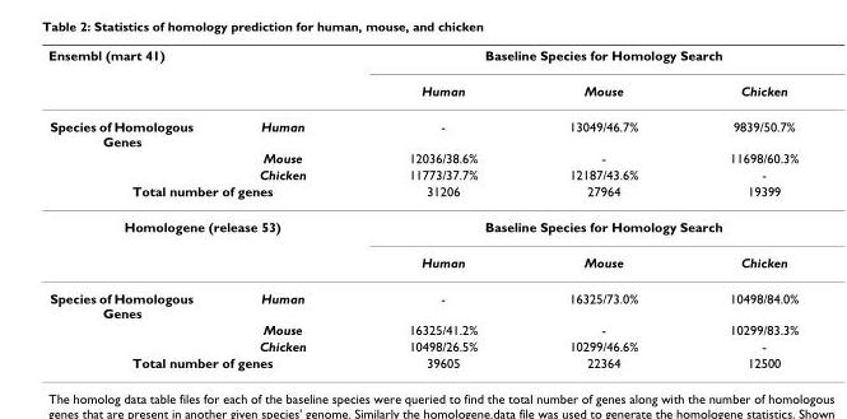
<table><thead><tr><td colspan="2">Ensembl (mart 41)</td><td colspan="3">Baseline Species for Homology Search</td></tr><tr><td></td><td></td><td>Human</td><td>Mouse</td><td>Chicken</td></tr></thead><tbody><tr><td rowspan="3">Species of Homologous Genes</td><td>Human</td><td>-</td><td>13049/46.7%</td><td>9839/50.7%</td></tr><tr><td>Mouse</td><td>12036/38.6%</td><td>-</td><td>11698/60.3%</td></tr><tr><td>Chicken</td><td>11773/37.7%</td><td>12187/43.6%</td><td>-</td></tr><tr><td colspan="2">Total number of genes</td><td>31206</td><td>27964</td><td>19399</td></tr><tr><td colspan="2">Homologene (release 53)</td><td colspan="3">Baseline Species for Homology Search</td></tr><tr><td></td><td></td><td>Human</td><td>Mouse</td><td>Chicken</td></tr><tr><td rowspan="3">Species of Homologous Genes</td><td>Human</td><td>-</td><td>16325/73.0%</td><td>10498/84.0%</td></tr><tr><td>Mouse</td><td>16325/41.2%</td><td>-</td><td>10299/83.3%</td></tr><tr><td>Chicken</td><td>10498/26.5%</td><td>10299/46.6%</td><td>-</td></tr><tr><td colspan="2">Total number of genes</td><td>39605</td><td>22364</td><td>12500</td></tr></tbody></table>